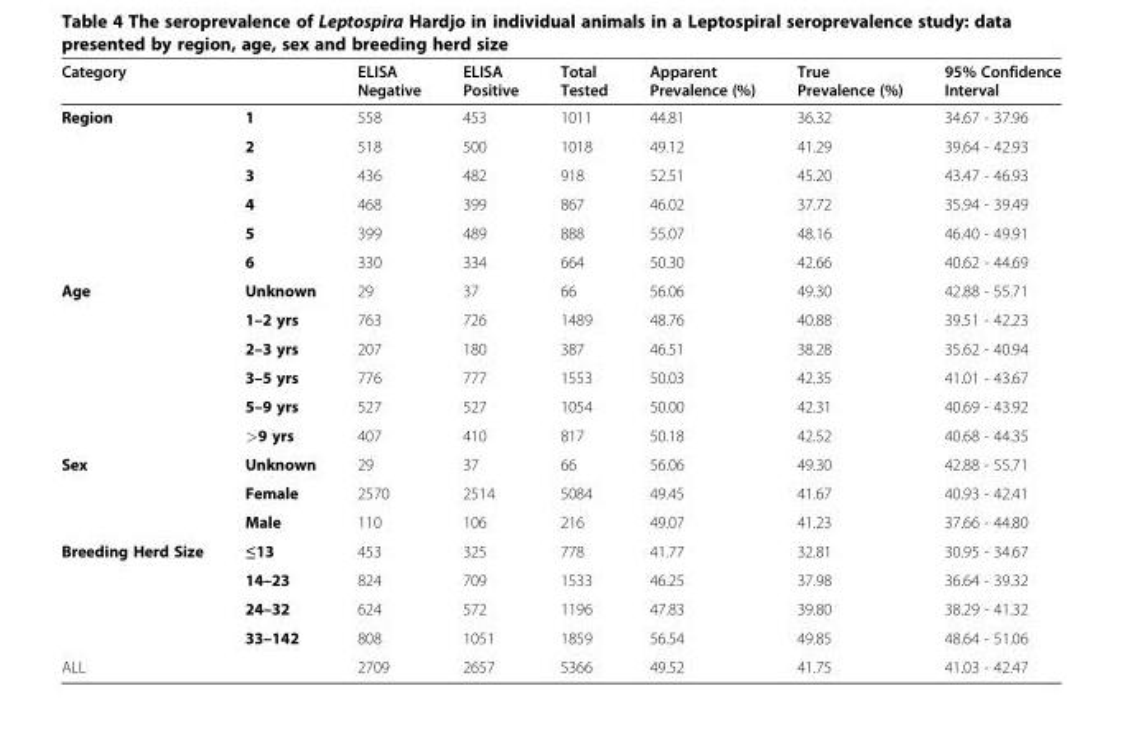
<table><thead><tr><td colspan="2">Category</td><td rowspan="2">ELISA Negative 558</td><td rowspan="2">ELISA Positive 453</td><td rowspan="2">Total Tested 1011</td><td rowspan="2">Apparent Prevalence (%) 44.81</td><td rowspan="2">True Prevalence (%) 36.32</td><td rowspan="2">95% Confidence Interval 34.67 - 37.96</td></tr><tr><td>Region</td><td>1</td></tr></thead><tbody><tr><td></td><td>2</td><td>518</td><td>500</td><td>1018</td><td>49.12</td><td>41.29</td><td>39.64 - 42.93</td></tr><tr><td></td><td>3</td><td>436</td><td>482</td><td>918</td><td>52.51</td><td>45.20</td><td>43.47 - 46.93</td></tr><tr><td></td><td>4</td><td>468</td><td>399</td><td>867</td><td>46.02</td><td>37.72</td><td>35.94 - 39.49</td></tr><tr><td></td><td>5</td><td>399</td><td>489</td><td>888</td><td>55.07</td><td>48.16</td><td>46.40 - 49.91</td></tr><tr><td></td><td>6</td><td>330</td><td>334</td><td>664</td><td>50.30</td><td>42.66</td><td>40.62 - 44.69</td></tr><tr><td rowspan="6">Age</td><td>Unknown</td><td>29</td><td>37</td><td>66</td><td>56.06</td><td>49.30</td><td>42.88 - 55.71</td></tr><tr><td>1–2 yrs</td><td>763</td><td>726</td><td>1489</td><td>48.76</td><td>40.88</td><td>39.51 - 42.23</td></tr><tr><td>2–3 yrs</td><td>207</td><td>180</td><td>387</td><td>46.51</td><td>38.28</td><td>35.62 - 40.94</td></tr><tr><td>3–5 yrs</td><td>776</td><td>777</td><td>1553</td><td>50.03</td><td>42.35</td><td>41.01 - 43.67</td></tr><tr><td>5–9 yrs</td><td>527</td><td>527</td><td>1054</td><td>50.00</td><td>42.31</td><td>40.69 - 43.92</td></tr><tr><td>&gt;9 yrs</td><td>407</td><td>410</td><td>817</td><td>50.18</td><td>42.52</td><td>40.68 - 44.35</td></tr><tr><td rowspan="3">Sex</td><td>Unknown</td><td>29</td><td>37</td><td>66</td><td>56.06</td><td>49.30</td><td>42.88 - 55.71</td></tr><tr><td>Female</td><td>2570</td><td>2514</td><td>5084</td><td>49.45</td><td>41.67</td><td>40.93 - 42.41</td></tr><tr><td>Male</td><td>110</td><td>106</td><td>216</td><td>49.07</td><td>41.23</td><td>37.66 - 44.80</td></tr><tr><td rowspan="4">Breeding Herd Size</td><td>≤13</td><td>453</td><td>325</td><td>778</td><td>41.77</td><td>32.81</td><td>30.95 - 34.67</td></tr><tr><td>14–23</td><td>824</td><td>709</td><td>1533</td><td>46.25</td><td>37.98</td><td>36.64 - 39.32</td></tr><tr><td>24–32</td><td>624</td><td>572</td><td>1196</td><td>47.83</td><td>39.80</td><td>38.29 - 41.32</td></tr><tr><td>33–142</td><td>808</td><td>1051</td><td>1859</td><td>56.54</td><td>49.85</td><td>48.64 - 51.06</td></tr><tr><td colspan="2">ALL</td><td>2709</td><td>2657</td><td>5366</td><td>49.52</td><td>41.75</td><td>41.03 - 42.47</td></tr></tbody></table>